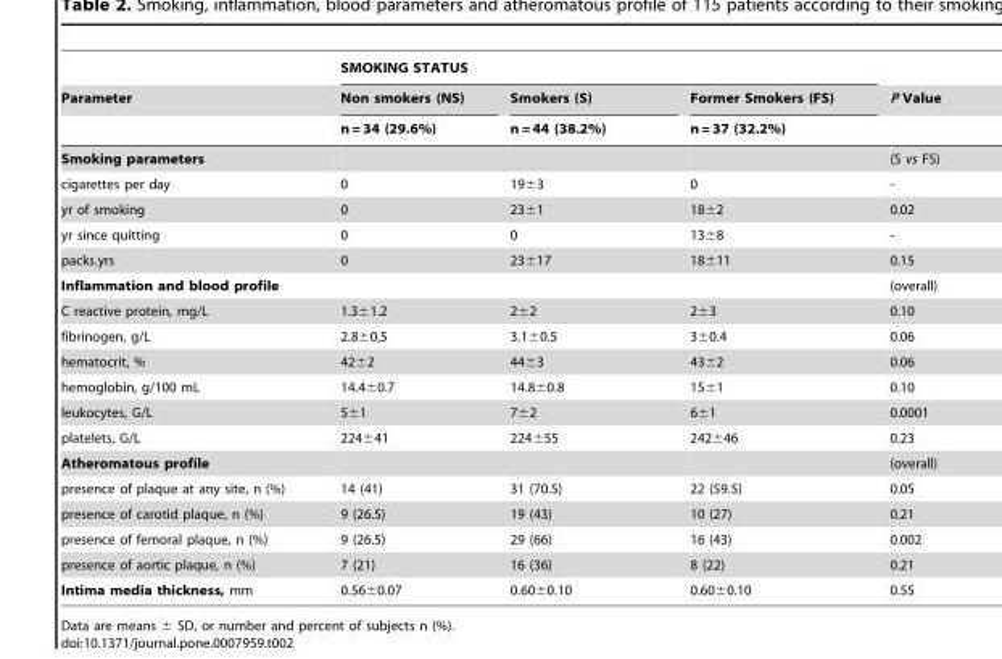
<table><thead><tr><td rowspan="3">Parameter</td><td colspan="3">SMOKING STATUS</td><td rowspan="3">P Value</td></tr><tr><td rowspan="2">Non smokers (NS) n = 34 (29.6%)</td><td rowspan="2">Smokers (S) n = 44 (38.2%)</td><td rowspan="2">Former Smokers (FS) n = 37 (32.2%)</td></tr><tr></tr></thead><tbody><tr><td>Smoking parameters</td><td></td><td></td><td></td><td>(S vs FS)</td></tr><tr><td>cigarettes per day</td><td>0</td><td>19±3</td><td>0</td><td>-</td></tr><tr><td>yr of smoking</td><td>0</td><td>23±1</td><td>18±2</td><td>0.02</td></tr><tr><td>yr since quitting</td><td>0</td><td>0</td><td>13±8</td><td>-</td></tr><tr><td>packs.yrs</td><td>0</td><td>23±17</td><td>18±11</td><td>0.15</td></tr><tr><td>Inflammation and blood profile</td><td></td><td></td><td></td><td>(overall)</td></tr><tr><td>C reactive protein, mg/L</td><td>1.3±1.2</td><td>2±2</td><td>2±3</td><td>0.10</td></tr><tr><td>fibrinogen, g/L</td><td>2.8±0,5</td><td>3.1±0.5</td><td>3±0.4</td><td>0.06</td></tr><tr><td>hematocrit, %</td><td>42±2</td><td>44±3</td><td>43±2</td><td>0.06</td></tr><tr><td>hemoglobin, g/100 mL</td><td>14.4±0.7</td><td>14.8±0.8</td><td>15±1</td><td>0.10</td></tr><tr><td>leukocytes, G/L</td><td>5±1</td><td>7±2</td><td>6±1</td><td>0.0001</td></tr><tr><td>platelets, G/L</td><td>224±41</td><td>224±55</td><td>242±46</td><td>0.23</td></tr><tr><td>Atheromatous profile</td><td></td><td></td><td></td><td>(overall)</td></tr><tr><td>presence of plaque at any site, n (%)</td><td>14 (41)</td><td>31 (70.5)</td><td>22 (59.5)</td><td>0.05</td></tr><tr><td>presence of carotid plaque, n (%)</td><td>9 (26.5)</td><td>19 (43)</td><td>10 (27)</td><td>0.21</td></tr><tr><td>presence of femoral plaque, n (%)</td><td>9 (26.5)</td><td>29 (66)</td><td>16 (43)</td><td>0.002</td></tr><tr><td>presence of aortic plaque, n (%)</td><td>7 (21)</td><td>16 (36)</td><td>8 (22)</td><td>0.21</td></tr><tr><td>Intima media thickness, mm</td><td>0.56±0.07</td><td>0.60±0.10</td><td>0.60±0.10</td><td>0.55</td></tr></tbody></table>